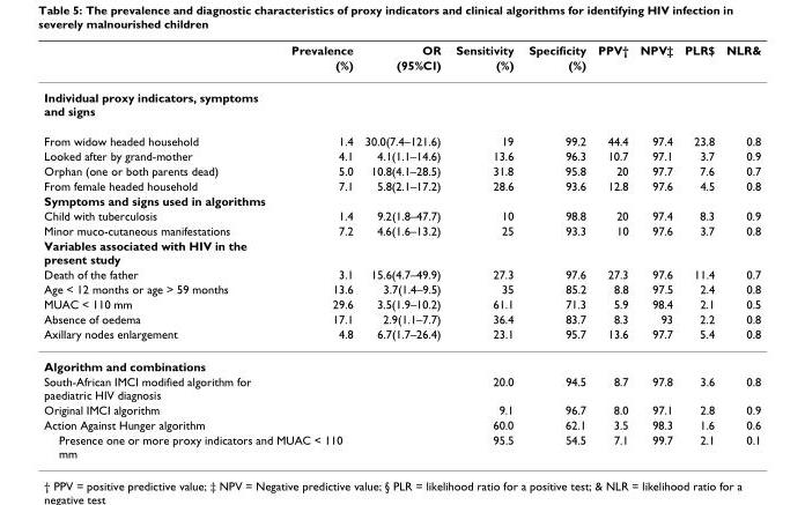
<table><thead><tr><td rowspan="2"></td><td rowspan="2">Prevalence (%)</td><td rowspan="2">OR (95%CI)</td><td rowspan="2">Sensitivity (%)</td><td rowspan="2">Specificity (%)</td><td rowspan="2">PPV†</td><td rowspan="2">NPV‡</td><td rowspan="2">PLR$</td><td rowspan="2">NLR&amp;</td></tr><tr></tr></thead><tbody><tr><td colspan="9">Individual proxy indicators, symptoms and signs</td></tr><tr><td>From widow headed household</td><td>1.4</td><td>30.0(7.4–121.6)</td><td>19</td><td>99.2</td><td>44.4</td><td>97.4</td><td>23.8</td><td>0.8</td></tr><tr><td>Looked after by grand-mother</td><td>4.1</td><td>4.1(1.1–14.6)</td><td>13.6</td><td>96.3</td><td>10.7</td><td>97.1</td><td>3.7</td><td>0.9</td></tr><tr><td>Orphan (one or both parents dead)</td><td>5.0</td><td>10.8(4.1–28.5)</td><td>31.8</td><td>95.8</td><td>20</td><td>97.7</td><td>7.6</td><td>0.7</td></tr><tr><td>From female headed household</td><td>7.1</td><td>5.8(2.1–17.2)</td><td>28.6</td><td>93.6</td><td>12.8</td><td>97.6</td><td>4.5</td><td>0.8</td></tr><tr><td colspan="9">Symptoms and signs used in algorithms</td></tr><tr><td>Child with tuberculosis</td><td>1.4</td><td>9.2(1.8–47.7)</td><td>10</td><td>98.8</td><td>20</td><td>97.4</td><td>8.3</td><td>0.9</td></tr><tr><td>Minor muco-cutaneous manifestations</td><td>7.2</td><td>4.6(1.6–13.2)</td><td>25</td><td>93.3</td><td>10</td><td>97.6</td><td>3.7</td><td>0.8</td></tr><tr><td colspan="9">Variables associated with HIV in the present study</td></tr><tr><td>Death of the father</td><td>3.1</td><td>15.6(4.7–49.9)</td><td>27.3</td><td>97.6</td><td>27.3</td><td>97.6</td><td>11.4</td><td>0.7</td></tr><tr><td>Age &lt; 12 months or age &gt; 59 months</td><td>13.6</td><td>3.7(1.4–9.5)</td><td>35</td><td>85.2</td><td>8.8</td><td>97.5</td><td>2.4</td><td>0.8</td></tr><tr><td>MUAC &lt; 110 mm</td><td>29.6</td><td>3.5(1.9–10.2)</td><td>61.1</td><td>71.3</td><td>5.9</td><td>98.4</td><td>2.1</td><td>0.5</td></tr><tr><td>Absence of oedema</td><td>17.1</td><td>2.9(1.1–7.7)</td><td>36.4</td><td>83.7</td><td>8.3</td><td>93</td><td>2.2</td><td>0.8</td></tr><tr><td>Axillary nodes enlargement</td><td>4.8</td><td>6.7(1.7–26.4)</td><td>23.1</td><td>95.7</td><td>13.6</td><td>97.7</td><td>5.4</td><td>0.8</td></tr><tr><td colspan="9">Algorithm and combinations</td></tr><tr><td>South-African IMCI modified algorithm for paediatric HIV diagnosis</td><td></td><td></td><td>20.0</td><td>94.5</td><td>8.7</td><td>97.8</td><td>3.6</td><td>0.8</td></tr><tr><td>Original IMCI algorithm</td><td></td><td></td><td>9.1</td><td>96.7</td><td>8.0</td><td>97.1</td><td>2.8</td><td>0.9</td></tr><tr><td>Action Against Hunger algorithm</td><td></td><td></td><td>60.0</td><td>62.1</td><td>3.5</td><td>98.3</td><td>1.6</td><td>0.6</td></tr><tr><td colspan="2">Presence one or more proxy indicators and MUAC &lt; 110 mm</td><td></td><td>95.5</td><td>54.5</td><td>7.1</td><td>99.7</td><td>2.1</td><td>0.1</td></tr></tbody></table>